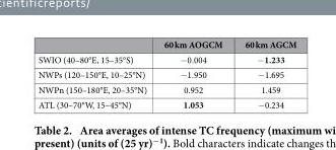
<table><thead><tr><td></td><td>60 km AOGCM</td><td>60 km AGCM</td></tr></thead><tbody><tr><td>SWIO (40–80°E, 15–35°S)</td><td>− 0.004</td><td>− 1.233</td></tr><tr><td>NWPs (120–150°E, 10–25°N)</td><td>− 1.950</td><td>− 1.695</td></tr><tr><td>NWPn (150–180°E, 20–35°N)</td><td>0.952</td><td>1.459</td></tr><tr><td>ATL (30–70°W, 15–45°N)</td><td>1.053</td><td>− 0.234</td></tr></tbody></table>